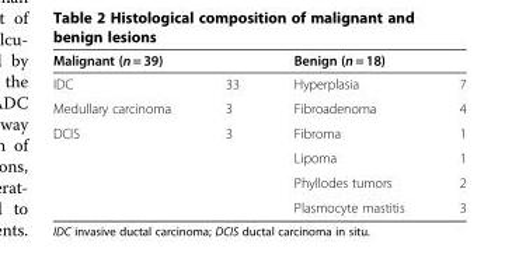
<table><thead><tr><td colspan="2">Malignant (n = 39)</td><td colspan="2">Benign (n = 18)</td></tr><tr><td>IDC</td><td>33</td><td>Hyperplasia</td><td>7</td></tr></thead><tbody><tr><td>Medullary carcinoma</td><td>3</td><td>Fibroadenoma</td><td>4</td></tr><tr><td rowspan="4">DCIS</td><td>3</td><td>Fibroma</td><td>1</td></tr><tr><td></td><td>Lipoma</td><td>1</td></tr><tr><td></td><td>Phyllodes tumors</td><td>2</td></tr><tr><td></td><td>Plasmocyte mastitis</td><td>3</td></tr></tbody></table>